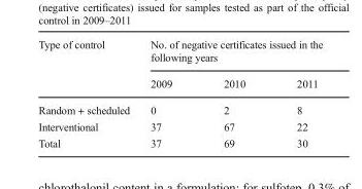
<table><thead><tr><td rowspan="2">Type of control</td><td colspan="3">No. of negative certificates issued in the following years</td></tr><tr><td>2009</td><td>2010</td><td>2011</td></tr></thead><tbody><tr><td>Random + scheduled</td><td>0</td><td>2</td><td>8</td></tr><tr><td>Interventional</td><td>37</td><td>67</td><td>22</td></tr><tr><td>Total</td><td>37</td><td>69</td><td>30</td></tr></tbody></table>